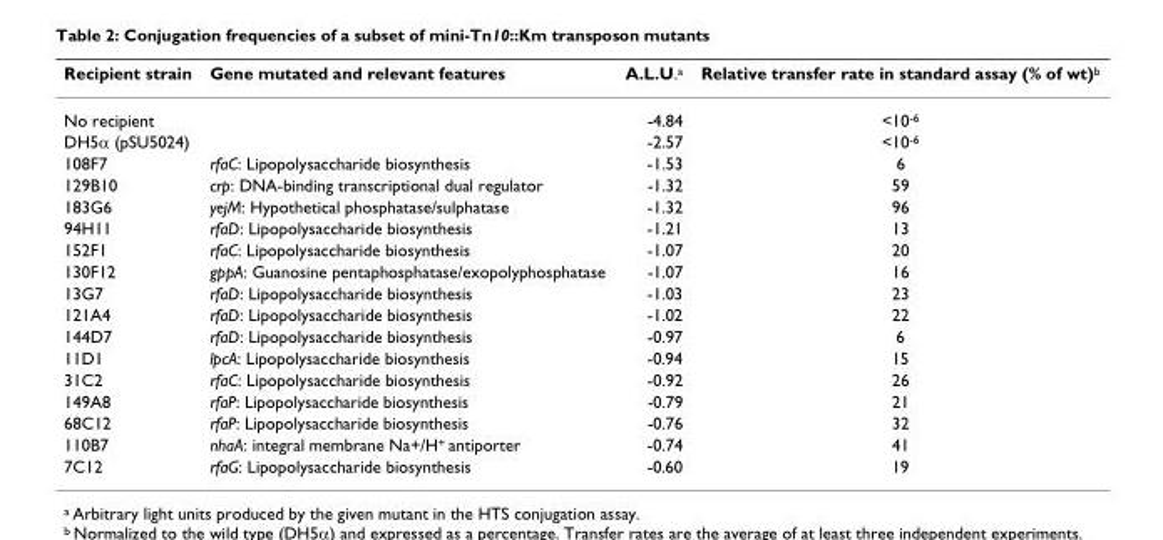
<table><thead><tr><td>Recipient strain</td><td>Gene mutated and relevant features</td><td>A.L.U.<sup>a</sup></td><td>Relative transfer rate in standard assay (% of wt)<sup>b</sup></td></tr></thead><tbody><tr><td>No recipient</td><td></td><td>-4.84</td><td>&lt;10<sup>-6</sup></td></tr><tr><td>DH5α (pSU5024)</td><td></td><td>-2.57</td><td>&lt;10<sup>-6</sup></td></tr><tr><td>108F7</td><td>rfaC: Lipopolysaccharide biosynthesis</td><td>-1.53</td><td>6</td></tr><tr><td>129B10</td><td>crp: DNA-binding transcriptional dual regulator</td><td>-1.32</td><td>59</td></tr><tr><td>183G6</td><td>yejM: Hypothetical phosphatase/sulphatase</td><td>-1.32</td><td>96</td></tr><tr><td>94H11</td><td>rfaD: Lipopolysaccharide biosynthesis</td><td>-1.21</td><td>13</td></tr><tr><td>152F1</td><td>rfaC: Lipopolysaccharide biosynthesis</td><td>-1.07</td><td>20</td></tr><tr><td>130F12</td><td>gppA: Guanosine pentaphosphatase/exopolyphosphatase</td><td>-1.07</td><td>16</td></tr><tr><td>13G7</td><td>rfaD: Lipopolysaccharide biosynthesis</td><td>-1.03</td><td>23</td></tr><tr><td>121A4</td><td>rfaD: Lipopolysaccharide biosynthesis</td><td>-1.02</td><td>22</td></tr><tr><td>144D7</td><td>rfaD: Lipopolysaccharide biosynthesis</td><td>-0.97</td><td>6</td></tr><tr><td>11D1</td><td>lpcA: Lipopolysaccharide biosynthesis</td><td>-0.94</td><td>15</td></tr><tr><td>31C2</td><td>rfaC: Lipopolysaccharide biosynthesis</td><td>-0.92</td><td>26</td></tr><tr><td>149A8</td><td>rfaP: Lipopolysaccharide biosynthesis</td><td>-0.79</td><td>21</td></tr><tr><td>68C12</td><td>rfaP: Lipopolysaccharide biosynthesis</td><td>-0.76</td><td>32</td></tr><tr><td>110B7</td><td>nhaA: integral membrane Na+/H<sup>+</sup> antiporter</td><td>-0.74</td><td>41</td></tr><tr><td>7C12</td><td>rfaG: Lipopolysaccharide biosynthesis</td><td>-0.60</td><td>19</td></tr></tbody></table>